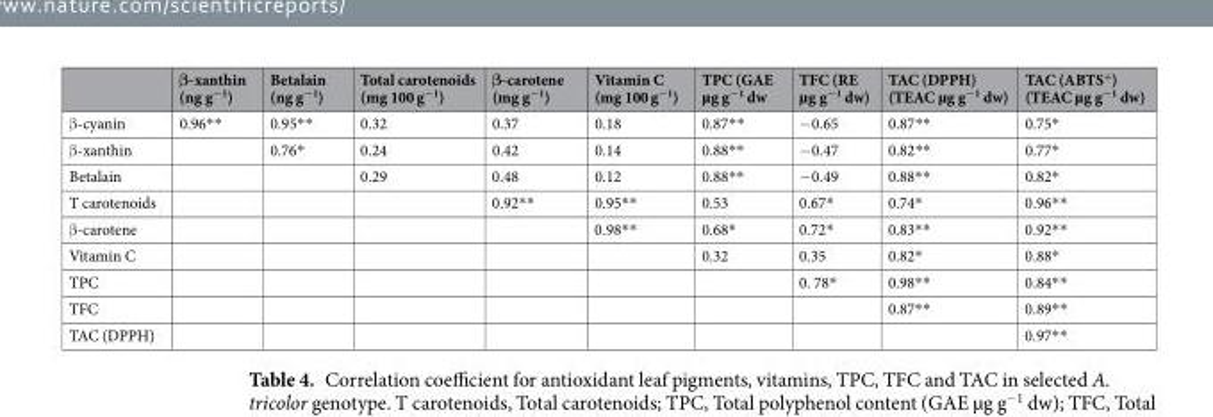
<table><thead><tr><td></td><td>β-xanthin (ng g<sup>−1</sup>)</td><td>Betalain (ng g<sup>−1</sup>)</td><td>Total carotenoids (mg 100 g<sup>−1</sup>)</td><td>β-carotene (mg g<sup>−1</sup>)</td><td>Vitamin C (mg 100 g<sup>−1</sup>)</td><td>TPC (GAE µg g<sup>−1</sup> dw</td><td>TFC (RE µg g<sup>−1</sup> dw)</td><td>TAC (DPPH) (TEAC µg g<sup>−1</sup> dw)</td><td>TAC (ABTS<sup>+</sup>) (TEAC µg g<sup>−1</sup> dw)</td></tr></thead><tbody><tr><td>β-cyanin</td><td>0.96**</td><td>0.95**</td><td>0.32</td><td>0.37</td><td>0.18</td><td>0.87**</td><td>−0.65</td><td>0.87**</td><td>0.75*</td></tr><tr><td>β-xanthin</td><td></td><td>0.76*</td><td>0.24</td><td>0.42</td><td>0.14</td><td>0.88**</td><td>−0.47</td><td>0.82**</td><td>0.77*</td></tr><tr><td>Betalain</td><td></td><td></td><td>0.29</td><td>0.48</td><td>0.12</td><td>0.88**</td><td>−0.49</td><td>0.88**</td><td>0.82*</td></tr><tr><td>T carotenoids</td><td></td><td></td><td></td><td>0.92**</td><td>0.95**</td><td>0.53</td><td>0.67*</td><td>0.74*</td><td>0.96**</td></tr><tr><td>β-carotene</td><td></td><td></td><td></td><td></td><td>0.98**</td><td>0.68*</td><td>0.72*</td><td>0.83**</td><td>0.92**</td></tr><tr><td>Vitamin C</td><td></td><td></td><td></td><td></td><td></td><td>0.32</td><td>0.35</td><td>0.82*</td><td>0.88*</td></tr><tr><td>TPC</td><td></td><td></td><td></td><td></td><td></td><td></td><td>0. 78*</td><td>0.98**</td><td>0.84**</td></tr><tr><td>TFC</td><td></td><td></td><td></td><td></td><td></td><td></td><td></td><td>0.87**</td><td>0.89**</td></tr><tr><td>TAC (DPPH)</td><td></td><td></td><td></td><td></td><td></td><td></td><td></td><td></td><td>0.97**</td></tr></tbody></table>